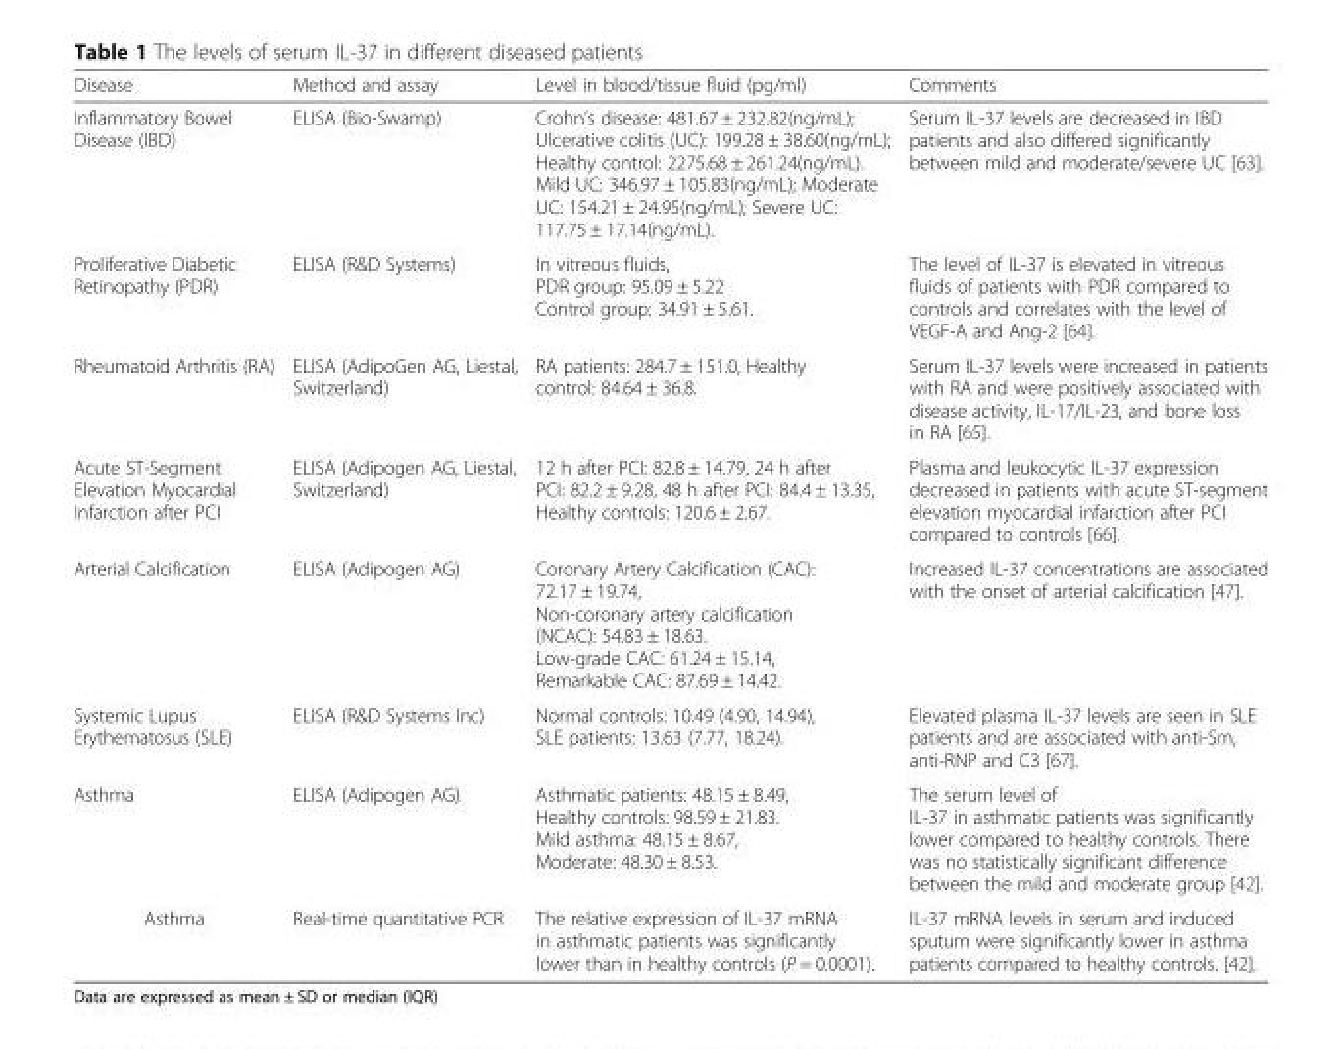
<table><thead><tr><td>Disease</td><td>Method and assay</td><td>Level in blood/tissue fluid (pg/ml)</td><td>Comments</td></tr></thead><tbody><tr><td>Inflammatory Bowel Disease (IBD)</td><td>ELISA (Bio-Swamp)</td><td>Crohn’s disease: 481.67 ± 232.82(ng/mL); Ulcerative colitis (UC): 199.28 ± 38.60(ng/mL); Healthy control: 2275.68 ± 261.24(ng/mL). Mild UC: 346.97 ± 105.83(ng/mL); Moderate UC: 154.21 ± 24.95(ng/mL); Severe UC: 117.75 ± 17.14(ng/mL).</td><td>Serum IL-37 levels are decreased in IBD patients and also differed significantly between mild and moderate/severe UC [63].</td></tr><tr><td>Proliferative Diabetic Retinopathy (PDR)</td><td>ELISA (R&amp;D Systems)</td><td>In vitreous fluids, PDR group: 95.09 ± 5.22 Control group: 34.91 ± 5.61.</td><td>The level of IL-37 is elevated in vitreous fluids of patients with PDR compared to controls and correlates with the level of VEGF-A and Ang-2 [64].</td></tr><tr><td>Rheumatoid Arthritis (RA)</td><td>ELISA (AdipoGen AG, Liestal, Switzerland)</td><td>RA patients: 284.7 ± 151.0, Healthy control: 84.64 ± 36.8.</td><td>Serum IL-37 levels were increased in patients with RA and were positively associated with disease activity, IL-17/IL-23, and bone loss in RA [65].</td></tr><tr><td>Acute ST-Segment Elevation Myocardial Infarction after PCI</td><td>ELISA (Adipogen AG, Liestal, Switzerland)</td><td>12 h after PCI: 82.8 ± 14.79, 24 h after PCI: 82.2 ± 9.28, 48 h after PCI: 84.4 ± 13.35, Healthy controls: 120.6 ± 2.67.</td><td>Plasma and leukocytic IL-37 expression decreased in patients with acute ST-segment elevation myocardial infarction after PCI compared to controls [66].</td></tr><tr><td>Arterial Calcification</td><td>ELISA (Adipogen AG)</td><td>Coronary Artery Calcification (CAC): 72.17 ± 19.74, Non-coronary artery calcification (NCAC): 54.83 ± 18.63. Low-grade CAC: 61.24 ± 15.14, Remarkable CAC: 87.69 ± 14.42.</td><td>Increased IL-37 concentrations are associated with the onset of arterial calcification [47].</td></tr><tr><td>Systemic Lupus Erythematosus (SLE)</td><td>ELISA (R&amp;D Systems Inc)</td><td>Normal controls: 10.49 (4.90, 14.94), SLE patients: 13.63 (7.77, 18.24).</td><td>Elevated plasma IL-37 levels are seen in SLE patients and are associated with anti-Sm, anti-RNP and C3 [67].</td></tr><tr><td>Asthma</td><td>ELISA (Adipogen AG)</td><td>Asthmatic patients: 48.15 ± 8.49, Healthy controls: 98.59 ± 21.83. Mild asthma: 48.15 ± 8.67, Moderate: 48.30 ± 8.53.</td><td>The serum level of IL-37 in asthmatic patients was significantly lower compared to healthy controls. There was no statistically significant difference between the mild and moderate group [42].</td></tr><tr><td>Asthma</td><td>Real-time quantitative PCR</td><td>The relative expression of IL-37 mRNA in asthmatic patients was significantly lower than in healthy controls (P = 0.0001).</td><td>IL-37 mRNA levels in serum and induced sputum were significantly lower in asthma patients compared to healthy controls. [42].</td></tr></tbody></table>